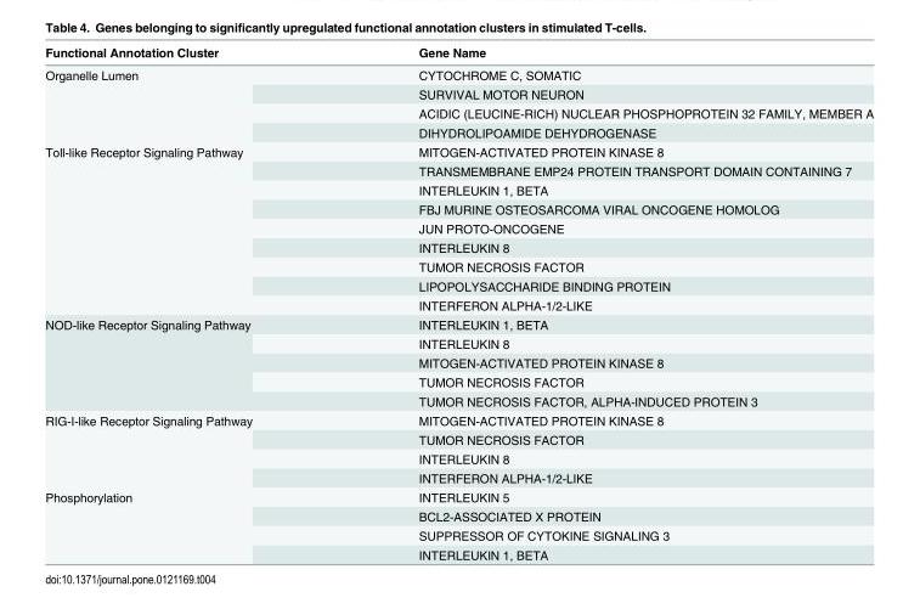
<table><thead><tr><td>Functional Annotation Cluster</td><td>Gene Name</td></tr></thead><tbody><tr><td rowspan="4">Organelle Lumen</td><td>CYTOCHROME C, SOMATIC</td></tr><tr><td>SURVIVAL MOTOR NEURON</td></tr><tr><td>ACIDIC (LEUCINE-RICH) NUCLEAR PHOSPHOPROTEIN 32 FAMILY, MEMBER A</td></tr><tr><td>DIHYDROLIPOAMIDE DEHYDROGENASE</td></tr><tr><td rowspan="9">Toll-like Receptor Signaling Pathway</td><td>MITOGEN-ACTIVATED PROTEIN KINASE 8</td></tr><tr><td>TRANSMEMBRANE EMP24 PROTEIN TRANSPORT DOMAIN CONTAINING 7</td></tr><tr><td>INTERLEUKIN 1, BETA</td></tr><tr><td>FBJ MURINE OSTEOSARCOMA VIRAL ONCOGENE HOMOLOG</td></tr><tr><td>JUN PROTO-ONCOGENE</td></tr><tr><td>INTERLEUKIN 8</td></tr><tr><td>TUMOR NECROSIS FACTOR</td></tr><tr><td>LIPOPOLYSACCHARIDE BINDING PROTEIN</td></tr><tr><td>INTERFERON ALPHA-1/2-LIKE</td></tr><tr><td rowspan="5">NOD-like Receptor Signaling Pathway</td><td>INTERLEUKIN 1, BETA</td></tr><tr><td>INTERLEUKIN 8</td></tr><tr><td>MITOGEN-ACTIVATED PROTEIN KINASE 8</td></tr><tr><td>TUMOR NECROSIS FACTOR</td></tr><tr><td>TUMOR NECROSIS FACTOR, ALPHA-INDUCED PROTEIN 3</td></tr><tr><td rowspan="4">RIG-I-like Receptor Signaling Pathway</td><td>MITOGEN-ACTIVATED PROTEIN KINASE 8</td></tr><tr><td>TUMOR NECROSIS FACTOR</td></tr><tr><td>INTERLEUKIN 8</td></tr><tr><td>INTERFERON ALPHA-1/2-LIKE</td></tr><tr><td rowspan="4">Phosphorylation</td><td>INTERLEUKIN 5</td></tr><tr><td>BCL2-ASSOCIATED X PROTEIN</td></tr><tr><td>SUPPRESSOR OF CYTOKINE SIGNALING 3</td></tr><tr><td>INTERLEUKIN 1, BETA</td></tr></tbody></table>